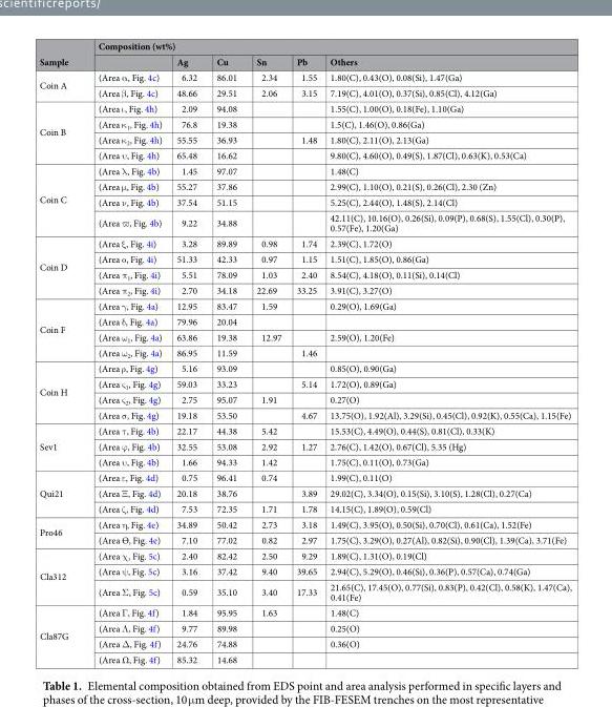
<table><thead><tr><td rowspan="2">Sample</td><td colspan="6">Composition (wt%)</td></tr><tr><td></td><td>Ag</td><td>Cu</td><td>Sn</td><td>Pb</td><td>Others</td></tr></thead><tbody><tr><td rowspan="2">Coin A</td><td>(Area α, Fig. 4c)</td><td>6.32</td><td>86.01</td><td>2.34</td><td>1.55</td><td>1.80(C), 0.43(O), 0.08(Si), 1.47(Ga)</td></tr><tr><td>(Area β, Fig. 4c)</td><td>48.66</td><td>29.51</td><td>2.06</td><td>3.15</td><td>7.19(C), 4.01(O), 0.37(Si), 0.85(Cl), 4.12(Ga)</td></tr><tr><td rowspan="4">Coin B</td><td>(Area ι, Fig. 4h)</td><td>2.09</td><td>94.08</td><td></td><td></td><td>1.55(C), 1.00(O), 0.18(Fe), 1.10(Ga)</td></tr><tr><td>(Area κ<sub>1</sub>, Fig. 4h)</td><td>76.8</td><td>19.38</td><td></td><td></td><td>1.5(C), 1.46(O), 0.86(Ga)</td></tr><tr><td>(Area κ<sub>2</sub>, Fig. 4h)</td><td>55.55</td><td>36.93</td><td></td><td>1.48</td><td>1.80(C), 2.11(O), 2.13(Ga)</td></tr><tr><td>(Area υ, Fig. 4h)</td><td>65.48</td><td>16.62</td><td></td><td></td><td>9.80(C), 4.60(O), 0.49(S), 1.87(Cl), 0.63(K), 0.53(Ca)</td></tr><tr><td rowspan="4">Coin C</td><td>(Area λ, Fig. 4b)</td><td>1.45</td><td>97.07</td><td></td><td></td><td>1.48(C)</td></tr><tr><td>(Area μ, Fig. 4b)</td><td>55.27</td><td>37.86</td><td></td><td></td><td>2.99(C), 1.10(O), 0.21(S), 0.26(Cl), 2.30 (Zn)</td></tr><tr><td>(Area ν, Fig. 4b)</td><td>37.54</td><td>51.15</td><td></td><td></td><td>5.25(C), 2.44(O), 1.48(S), 2.14(Cl)</td></tr><tr><td>(Area ϖ, Fig. 4b)</td><td>9.22</td><td>34.88</td><td></td><td></td><td>42.11(C), 10.16(O), 0.26(Si), 0.09(P), 0.68(S), 1.55(Cl), 0.30(P), 0.57(Fe), 1.20(Ga)</td></tr><tr><td rowspan="4">Coin D</td><td>(Area ξ, Fig. 4i)</td><td>3.28</td><td>89.89</td><td>0.98</td><td>1.74</td><td>2.39(C), 1.72(O)</td></tr><tr><td>(Area ο, Fig. 4i)</td><td>51.33</td><td>42.33</td><td>0.97</td><td>1.15</td><td>1.51(C), 1.85(O), 0.86(Ga)</td></tr><tr><td>(Area π<sub>1</sub>, Fig. 4i)</td><td>5.51</td><td>78.09</td><td>1.03</td><td>2.40</td><td>8.54(C), 4.18(O), 0.11(Si), 0.14(Cl)</td></tr><tr><td>(Area π<sub>2</sub>, Fig. 4i)</td><td>2.70</td><td>34.18</td><td>22.69</td><td>33.25</td><td>3.91(C), 3.27(O)</td></tr><tr><td rowspan="4">Coin F</td><td>(Area γ, Fig. 4a)</td><td>12.95</td><td>83.47</td><td>1.59</td><td></td><td>0.29(O), 1.69(Ga)</td></tr><tr><td>(Area δ, Fig. 4a)</td><td>79.96</td><td>20.04</td><td></td><td></td><td></td></tr><tr><td>(Area ω<sub>1</sub>, Fig. 4a)</td><td>63.86</td><td>19.38</td><td>12.97</td><td></td><td>2.59(O), 1.20(Fe)</td></tr><tr><td>(Area ω<sub>2</sub>, Fig. 4a)</td><td>86.95</td><td>11.59</td><td></td><td>1.46</td><td></td></tr><tr><td rowspan="4">Coin H</td><td>(Area ρ, Fig. 4g)</td><td>5.16</td><td>93.09</td><td></td><td></td><td>0.85(O), 0.90(Ga)</td></tr><tr><td>(Area ς<sub>1</sub>, Fig. 4g)</td><td>59.03</td><td>33.23</td><td></td><td>5.14</td><td>1.72(O), 0.89(Ga)</td></tr><tr><td>(Area ς<sub>2</sub>, Fig. 4g)</td><td>2.75</td><td>95.07</td><td>1.91</td><td></td><td>0.27(O)</td></tr><tr><td>(Area σ, Fig. 4g)</td><td>19.18</td><td>53.50</td><td></td><td>4.67</td><td>13.75(O), 1.92(Al), 3.29(Si), 0.45(Cl), 0.92(K), 0.55(Ca), 1.15(Fe)</td></tr><tr><td rowspan="3">Sev1</td><td>(Area τ, Fig. 4b)</td><td>22.17</td><td>44.38</td><td>5.42</td><td></td><td>15.53(C), 4.49(O), 0.44(S), 0.81(Cl), 0.33(K)</td></tr><tr><td>(Area ϕ, Fig. 4b)</td><td>32.55</td><td>53.08</td><td>2.92</td><td>1.27</td><td>2.76(C), 1.42(O), 0.67(Cl), 5.35 (Hg)</td></tr><tr><td>(Area υ, Fig. 4b)</td><td>1.66</td><td>94.33</td><td>1.42</td><td></td><td>1.75(C), 0.11(O), 0.73(Ga)</td></tr><tr><td rowspan="3">Qui21</td><td>(Area ε, Fig. 4d)</td><td>0.75</td><td>96.41</td><td>0.74</td><td></td><td>1.99(C), 0.11(O)</td></tr><tr><td>(Area Ξ, Fig. 4d)</td><td>20.18</td><td>38.76</td><td></td><td>3.89</td><td>29.02(C), 3.34(O), 0.15(Si), 3.10(S), 1.28(Cl), 0.27(Ca)</td></tr><tr><td>(Area ζ, Fig. 4d)</td><td>7.53</td><td>72.35</td><td>1.71</td><td>1.78</td><td>14.15(C), 1.89(O), 0.59(Cl)</td></tr><tr><td rowspan="2">Pro46</td><td>(Area η, Fig. 4e)</td><td>34.89</td><td>50.42</td><td>2.73</td><td>3.18</td><td>1.49(C), 3.95(O), 0.50(Si), 0.70(Cl), 0.61(Ca), 1.52(Fe)</td></tr><tr><td>(Area Ѳ, Fig. 4e)</td><td>7.10</td><td>77.02</td><td>0.82</td><td>2.97</td><td>1.75(C), 3.29(O), 0.27(Al), 0.82(Si), 0.90(Cl), 1.39(Ca), 3.71(Fe)</td></tr><tr><td rowspan="3">Cla312</td><td>(Area χ, Fig. 5c)</td><td>2.40</td><td>82.42</td><td>2.50</td><td>9.29</td><td>1.89(C), 1.31(O), 0.19(Cl)</td></tr><tr><td>(Area ψ, Fig. 5c)</td><td>3.16</td><td>37.42</td><td>9.40</td><td>39.65</td><td>2.94(C), 5.29(O), 0.46(Si), 0.36(P), 0.57(Ca), 0.74(Ga)</td></tr><tr><td>(Area Σ, Fig. 5c)</td><td>0.59</td><td>35.10</td><td>3.40</td><td>17.33</td><td>21.65(C), 17.45(O), 0.77(Si), 0.83(P), 0.42(Cl), 0.58(K), 1.47(Ca), 0.41(Fe)</td></tr><tr><td rowspan="4">Cla87G</td><td>(Area Γ, Fig. 4f)</td><td>1.84</td><td>95.95</td><td>1.63</td><td></td><td>1.48(C)</td></tr><tr><td>(Area Λ, Fig. 4f)</td><td>9.77</td><td>89.98</td><td></td><td></td><td>0.25(O)</td></tr><tr><td>(Area Δ, Fig. 4f)</td><td>24.76</td><td>74.88</td><td></td><td></td><td>0.36(O)</td></tr><tr><td>(Area Ω, Fig. 4f)</td><td>85.32</td><td>14.68</td><td></td><td></td><td></td></tr></tbody></table>